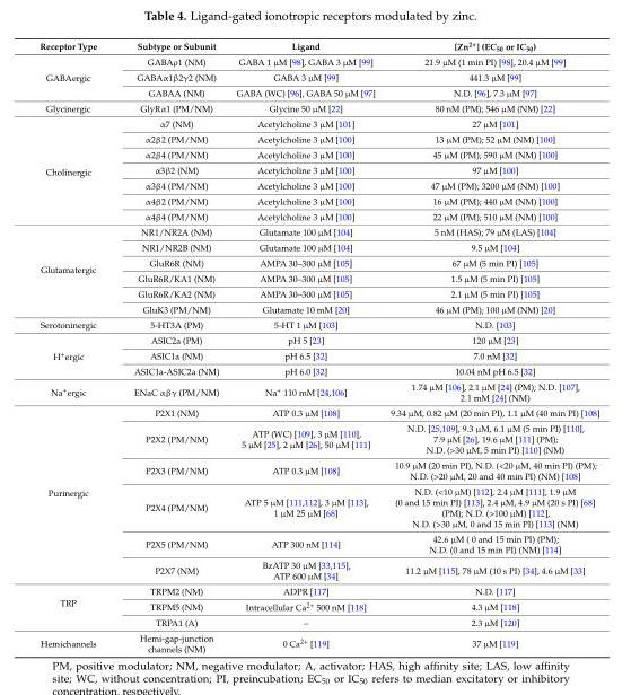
<table><thead><tr><td>Receptor Type</td><td>Subtype or Subunit</td><td>Ligand</td><td>[Zn<sup>2+</sup>] (EC<sub>50</sub> or IC<sub>50</sub>)</td></tr></thead><tbody><tr><td rowspan="3">GABAergic</td><td>GABAρ1 (NM)</td><td>GABA 1 µM [98], GABA 3 µM [99]</td><td>21.9 µM (1 min PI) [98], 20.4 µM [99]</td></tr><tr><td>GABAα1β2γ2 (NM)</td><td>GABA 3 µM [99]</td><td>441.3 µM [99]</td></tr><tr><td>GABAA (NM)</td><td>GABA (WC) [96], GABA 50 µM [97]</td><td>N.D. [96], 7.3 µM [97]</td></tr><tr><td>Glycinergic</td><td>GlyRα1 (PM/NM)</td><td>Glycine 50 µM [22]</td><td>80 nM (PM); 546 µM (NM) [22]</td></tr><tr><td rowspan="7">Cholinergic</td><td>α7 (NM)</td><td>Acetylcholine 3 µM [101]</td><td>27 µM [101]</td></tr><tr><td>α2β2 (PM/NM)</td><td>Acetylcholine 3 µM [100]</td><td>13 µM (PM); 52 µM (NM) [100]</td></tr><tr><td>α2β4 (PM/NM)</td><td>Acetylcholine 3 µM [100]</td><td>45 µM (PM); 590 µM (NM) [100]</td></tr><tr><td>α3β2 (NM)</td><td>Acetylcholine 3 µM [100]</td><td>97 µM [100]</td></tr><tr><td>α3β4 (PM/NM)</td><td>Acetylcholine 3 µM [100]</td><td>47 µM (PM); 3200 µM (NM) [100]</td></tr><tr><td>α4β2 (PM/NM)</td><td>Acetylcholine 3 µM [100]</td><td>16 µM (PM); 440 µM (NM) [100]</td></tr><tr><td>α4β4 (PM/NM)</td><td>Acetylcholine 3 µM [100]</td><td>22 µM (PM); 510 µM (NM) [100]</td></tr><tr><td rowspan="6">Glutamatergic</td><td>NR1/NR2A (NM)</td><td>Glutamate 100 µM [104]</td><td>5 nM (HAS); 79 µM (LAS) [104]</td></tr><tr><td>NR1/NR2B (NM)</td><td>Glutamate 100 µM [104]</td><td>9.5 µM [104]</td></tr><tr><td>GluR6R (NM)</td><td>AMPA 30–300 µM [105]</td><td>67 µM (5 min PI) [105]</td></tr><tr><td>GluR6R/KA1 (NM)</td><td>AMPA 30–300 µM [105]</td><td>1.5 µM (5 min PI) [105]</td></tr><tr><td>GluR6R/KA2 (NM)</td><td>AMPA 30–300 µM [105]</td><td>2.1 µM (5 min PI) [105]</td></tr><tr><td>GluK3 (PM/NM)</td><td>Glutamate 10 mM [20]</td><td>46 µM (PM); 100 µM (NM) [20]</td></tr><tr><td>Serotoninergic</td><td>5-HT3A (PM)</td><td>5-HT 1 µM [103]</td><td>N.D. [103]</td></tr><tr><td rowspan="3">H<sup>+</sup>ergic</td><td>ASIC2a (PM)</td><td>pH 5 [23]</td><td>120 µM [23]</td></tr><tr><td>ASIC1a (NM)</td><td>pH 6.5 [32]</td><td>7.0 nM [32]</td></tr><tr><td>ASIC1a-ASIC2a (NM)</td><td>pH 6.0 [32]</td><td>10.04 nM pH 6.5 [32]</td></tr><tr><td>Na<sup>+</sup>ergic</td><td>ENaC αβγ (PM/NM)</td><td>Na<sup>+</sup> 110 mM [24,106]</td><td>1.74 µM [106], 2.1 µM [24] (PM); N.D. [107], 2.1 mM [24] (NM)</td></tr><tr><td rowspan="6">Purinergic</td><td>P2X1 (NM)</td><td>ATP 0.3 µM [108]</td><td>9.34 µM, 0.82 µM (20 min PI), 1.1 µM (40 min PI) [108]</td></tr><tr><td>P2X2 (PM/NM)</td><td>ATP (WC) [109], 3 µM [110], 5 µM [25], 2 µM [26], 50 µM [111]</td><td>N.D. [25,109], 9.3 µM, 6.1 µM (5 min PI) [110], 7.9 µM [26], 19.6 µM [111] (PM); N.D. (&gt;30 µM, 5 min PI) [110] (NM)</td></tr><tr><td>P2X3 (PM/NM)</td><td>ATP 0.3 µM [108]</td><td>10.9 µM (20 min PI), N.D. (&lt;20 µM, 40 min PI) (PM); N.D. (&gt;20 µM, 20 and 40 min PI) (NM) [108]</td></tr><tr><td>P2X4 (PM/NM)</td><td>ATP 5 µM [111,112], 3 µM [113], 1 µM 25 µM [68]</td><td>N.D. (&lt;10 µM) [112], 2.4 µM [111], 1.9 µM (0 and 15 min PI) [113], 2.4 µM, 4.9 µM (20 s PI) [68] (PM); N.D. (&gt;100 µM) [112], N.D. (&gt;30 µM, 0 and 15 min PI) [113] (NM)</td></tr><tr><td>P2X5 (PM/NM)</td><td>ATP 300 nM [114]</td><td>42.6 µM ( 0 and 15 min PI) (PM); N.D. (0 and 15 min PI) (NM) [114]</td></tr><tr><td>P2X7 (NM)</td><td>BzATP 30 µM [33,115], ATP 600 µM [34]</td><td>11.2 µM [115], 78 µM (10 s PI) [34], 4.6 µM [33]</td></tr><tr><td rowspan="3">TRP</td><td>TRPM2 (NM)</td><td>ADPR [117]</td><td>N.D. [117]</td></tr><tr><td>TRPM5 (NM)</td><td>Intracellular Ca<sup>2+</sup> 500 nM [118]</td><td>4.3 µM [118]</td></tr><tr><td>TRPA1 (A)</td><td>–</td><td>2.3 µM [120]</td></tr><tr><td>Hemichannels</td><td>Hemi-gap-junction channels (NM)</td><td>0 Ca<sup>2+</sup> [119]</td><td>37 µM [119]</td></tr></tbody></table>